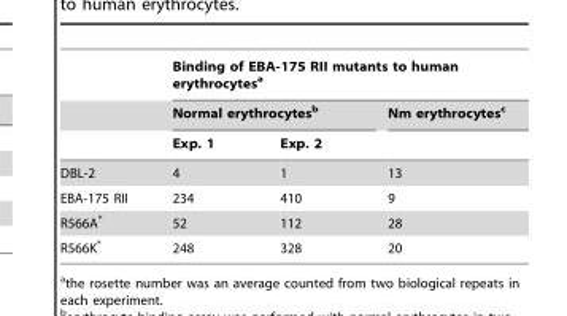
<table><thead><tr><td rowspan="3"></td><td colspan="3">Binding of EBA-175 RII mutants to human erythrocytes<sup>a</sup></td></tr><tr><td colspan="2">Normal erythrocytes<sup>b</sup></td><td rowspan="2">Nm erythrocytes<sup>c</sup></td></tr><tr><td>Exp. 1</td><td>Exp. 2</td></tr></thead><tbody><tr><td>DBL-2</td><td>4</td><td>1</td><td>13</td></tr><tr><td>EBA-175 RII</td><td>234</td><td>410</td><td>9</td></tr><tr><td>R566A*</td><td>52</td><td>112</td><td>28</td></tr><tr><td>R566K*</td><td>248</td><td>328</td><td>20</td></tr></tbody></table>